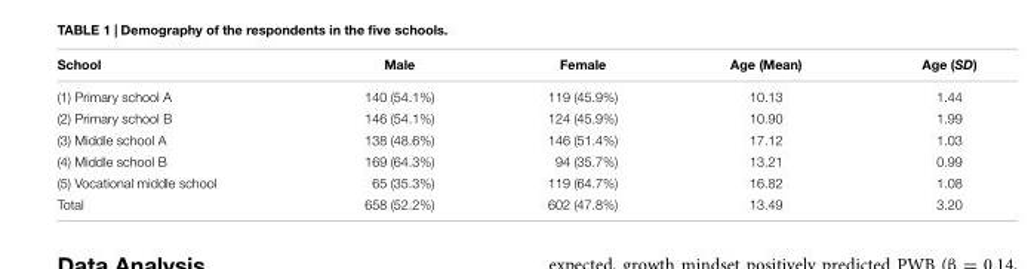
<table><thead><tr><td>School</td><td>Male</td><td>Female</td><td>Age (Mean)</td><td>Age (SD)</td></tr></thead><tbody><tr><td>(1) Primary school A</td><td>140 (54.1%)</td><td>119 (45.9%)</td><td>10.13</td><td>1.44</td></tr><tr><td>(2) Primary school B</td><td>146 (54.1%)</td><td>124 (45.9%)</td><td>10.90</td><td>1.99</td></tr><tr><td>(3) Middle school A</td><td>138 (48.6%)</td><td>146 (51.4%)</td><td>17.12</td><td>1.03</td></tr><tr><td>(4) Middle school B</td><td>169 (64.3%)</td><td>94 (35.7%)</td><td>13.21</td><td>0.99</td></tr><tr><td>(5) Vocational middle school</td><td>65 (35.3%)</td><td>119 (64.7%)</td><td>16.82</td><td>1.08</td></tr><tr><td>Total</td><td>658 (52.2%)</td><td>602 (47.8%)</td><td>13.49</td><td>3.20</td></tr></tbody></table>